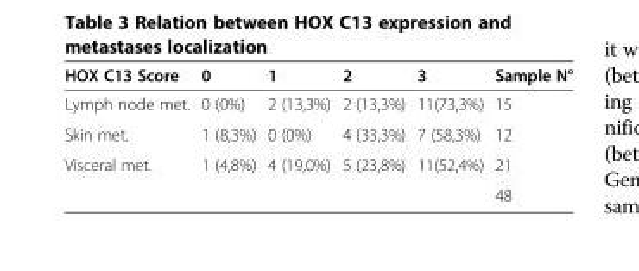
<table><thead><tr><td>HOX C13 Score</td><td>0</td><td>1</td><td>2</td><td>3</td><td>Sample N°</td></tr></thead><tbody><tr><td>Lymph node met.</td><td>0 (0%)</td><td>2 (13,3%)</td><td>2 (13,3%)</td><td>11(73,3%)</td><td>15</td></tr><tr><td>Skin met.</td><td>1 (8,3%)</td><td>0 (0%)</td><td>4 (33,3%)</td><td>7 (58,3%)</td><td>12</td></tr><tr><td rowspan="2">Visceral met.</td><td>1 (4,8%)</td><td>4 (19,0%)</td><td>5 (23,8%)</td><td>11(52,4%)</td><td>21</td></tr><tr><td></td><td></td><td></td><td></td><td>48</td></tr></tbody></table>